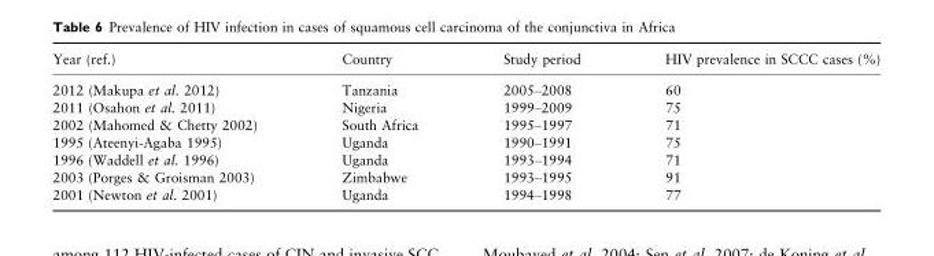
<table><thead><tr><td>Year (ref.)</td><td>Country</td><td>Study period</td><td>HIV prevalence in SCCC cases (%)</td></tr></thead><tbody><tr><td>2012 (Makupa et al. 2012)</td><td>Tanzania</td><td>2005–2008</td><td>60</td></tr><tr><td>2011 (Osahon et al. 2011)</td><td>Nigeria</td><td>1999–2009</td><td>75</td></tr><tr><td>2002 (Mahomed &amp; Chetty 2002)</td><td>South Africa</td><td>1995–1997</td><td>71</td></tr><tr><td>1995 (Ateenyi-Agaba 1995)</td><td>Uganda</td><td>1990–1991</td><td>75</td></tr><tr><td>1996 (Waddell et al. 1996)</td><td>Uganda</td><td>1993–1994</td><td>71</td></tr><tr><td>2003 (Porges &amp; Groisman 2003)</td><td>Zimbabwe</td><td>1993–1995</td><td>91</td></tr><tr><td>2001 (Newton et al. 2001)</td><td>Uganda</td><td>1994–1998</td><td>77</td></tr></tbody></table>